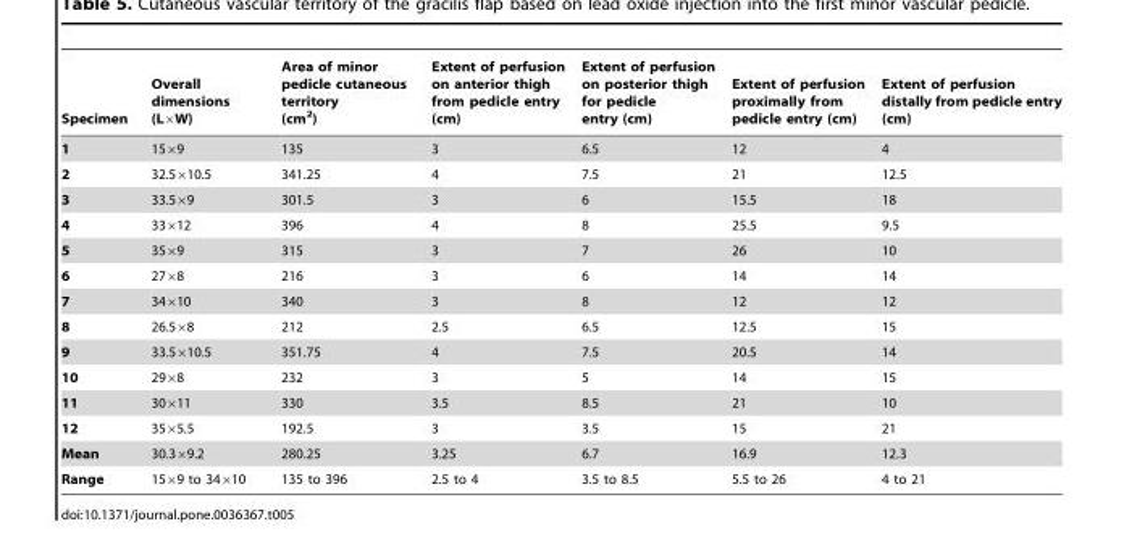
<table><thead><tr><td>Specimen</td><td>Overall dimensions (L×W)</td><td>Area of minor pedicle cutaneous territory (cm<sup>2</sup>)</td><td>Extent of perfusion on anterior thigh from pedicle entry (cm)</td><td>Extent of perfusion on posterior thigh for pedicle entry (cm)</td><td>Extent of perfusion proximally from pedicle entry (cm)</td><td>Extent of perfusion distally from pedicle entry (cm)</td></tr></thead><tbody><tr><td>1</td><td>15×9</td><td>135</td><td>3</td><td>6.5</td><td>12</td><td>4</td></tr><tr><td>2</td><td>32.5×10.5</td><td>341.25</td><td>4</td><td>7.5</td><td>21</td><td>12.5</td></tr><tr><td>3</td><td>33.5×9</td><td>301.5</td><td>3</td><td>6</td><td>15.5</td><td>18</td></tr><tr><td>4</td><td>33×12</td><td>396</td><td>4</td><td>8</td><td>25.5</td><td>9.5</td></tr><tr><td>5</td><td>35×9</td><td>315</td><td>3</td><td>7</td><td>26</td><td>10</td></tr><tr><td>6</td><td>27×8</td><td>216</td><td>3</td><td>6</td><td>14</td><td>14</td></tr><tr><td>7</td><td>34×10</td><td>340</td><td>3</td><td>8</td><td>12</td><td>12</td></tr><tr><td>8</td><td>26.5×8</td><td>212</td><td>2.5</td><td>6.5</td><td>12.5</td><td>15</td></tr><tr><td>9</td><td>33.5×10.5</td><td>351.75</td><td>4</td><td>7.5</td><td>20.5</td><td>14</td></tr><tr><td>10</td><td>29×8</td><td>232</td><td>3</td><td>5</td><td>14</td><td>15</td></tr><tr><td>11</td><td>30×11</td><td>330</td><td>3.5</td><td>8.5</td><td>21</td><td>10</td></tr><tr><td>12</td><td>35×5.5</td><td>192.5</td><td>3</td><td>3.5</td><td>15</td><td>21</td></tr><tr><td>Mean</td><td>30.3×9.2</td><td>280.25</td><td>3.25</td><td>6.7</td><td>16.9</td><td>12.3</td></tr><tr><td>Range</td><td>15×9 to 34×10</td><td>135 to 396</td><td>2.5 to 4</td><td>3.5 to 8.5</td><td>5.5 to 26</td><td>4 to 21</td></tr></tbody></table>